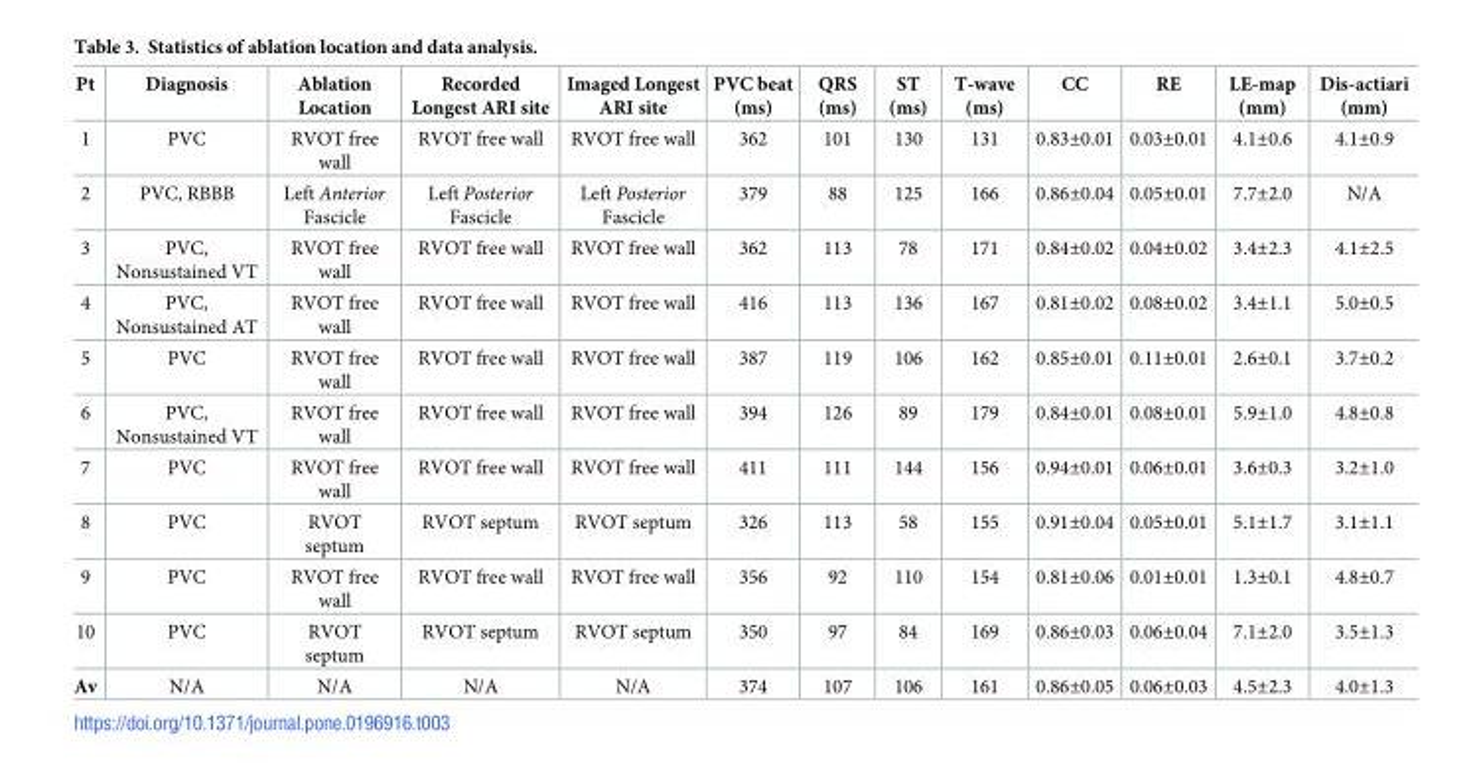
<table><thead><tr><td>Pt</td><td>Diagnosis</td><td>Ablation Location</td><td>Recorded Longest ARI site</td><td>Imaged Longest ARI site</td><td>PVC beat (ms)</td><td>QRS (ms)</td><td>ST (ms)</td><td>T-wave (ms)</td><td>CC</td><td>RE</td><td>LE-map (mm)</td><td>Dis-actiari (mm)</td></tr></thead><tbody><tr><td>1</td><td>PVC</td><td>RVOT free wall</td><td>RVOT free wall</td><td>RVOT free wall</td><td>362</td><td>101</td><td>130</td><td>131</td><td>0.83±0.01</td><td>0.03±0.01</td><td>4.1±0.6</td><td>4.1±0.9</td></tr><tr><td>2</td><td>PVC, RBBB</td><td>Left Anterior Fascicle</td><td>Left Posterior Fascicle</td><td>Left Posterior Fascicle</td><td>379</td><td>88</td><td>125</td><td>166</td><td>0.86±0.04</td><td>0.05±0.01</td><td>7.7±2.0</td><td>N/A</td></tr><tr><td>3</td><td>PVC, Nonsustained VT</td><td>RVOT free wall</td><td>RVOT free wall</td><td>RVOT free wall</td><td>362</td><td>113</td><td>78</td><td>171</td><td>0.84±0.02</td><td>0.04±0.02</td><td>3.4±2.3</td><td>4.1±2.5</td></tr><tr><td>4</td><td>PVC, Nonsustained AT</td><td>RVOT free wall</td><td>RVOT free wall</td><td>RVOT free wall</td><td>416</td><td>113</td><td>136</td><td>167</td><td>0.81±0.02</td><td>0.08±0.02</td><td>3.4±1.1</td><td>5.0±0.5</td></tr><tr><td>5</td><td>PVC</td><td>RVOT free wall</td><td>RVOT free wall</td><td>RVOT free wall</td><td>387</td><td>119</td><td>106</td><td>162</td><td>0.85±0.01</td><td>0.11±0.01</td><td>2.6±0.1</td><td>3.7±0.2</td></tr><tr><td>6</td><td>PVC, Nonsustained VT</td><td>RVOT free wall</td><td>RVOT free wall</td><td>RVOT free wall</td><td>394</td><td>126</td><td>89</td><td>179</td><td>0.84±0.01</td><td>0.08±0.01</td><td>5.9±1.0</td><td>4.8±0.8</td></tr><tr><td>7</td><td>PVC</td><td>RVOT free wall</td><td>RVOT free wall</td><td>RVOT free wall</td><td>411</td><td>111</td><td>144</td><td>156</td><td>0.94±0.01</td><td>0.06±0.01</td><td>3.6±0.3</td><td>3.2±1.0</td></tr><tr><td>8</td><td>PVC</td><td>RVOT septum</td><td>RVOT septum</td><td>RVOT septum</td><td>326</td><td>113</td><td>58</td><td>155</td><td>0.91±0.04</td><td>0.05±0.01</td><td>5.1±1.7</td><td>3.1±1.1</td></tr><tr><td>9</td><td>PVC</td><td>RVOT free wall</td><td>RVOT free wall</td><td>RVOT free wall</td><td>356</td><td>92</td><td>110</td><td>154</td><td>0.81±0.06</td><td>0.01±0.01</td><td>1.3±0.1</td><td>4.8±0.7</td></tr><tr><td>10</td><td>PVC</td><td>RVOT septum</td><td>RVOT septum</td><td>RVOT septum</td><td>350</td><td>97</td><td>84</td><td>169</td><td>0.86±0.03</td><td>0.06±0.04</td><td>7.1±2.0</td><td>3.5±1.3</td></tr><tr><td>Av</td><td>N/A</td><td>N/A</td><td>N/A</td><td>N/A</td><td>374</td><td>107</td><td>106</td><td>161</td><td>0.86±0.05</td><td>0.06±0.03</td><td>4.5±2.3</td><td>4.0±1.3</td></tr></tbody></table>